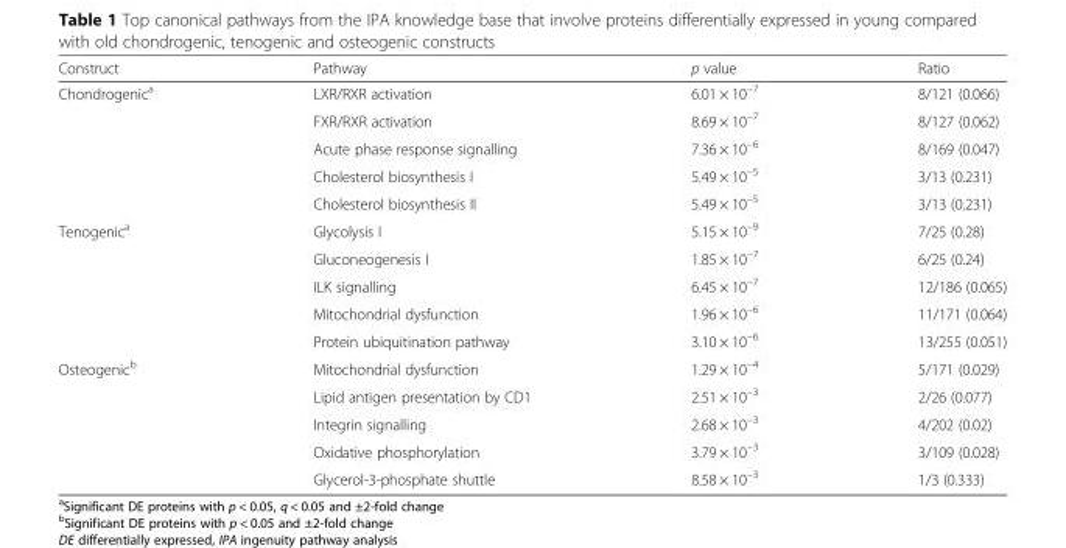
<table><thead><tr><td>Construct</td><td>Pathway</td><td>p value</td><td>Ratio</td></tr></thead><tbody><tr><td rowspan="5">Chondrogenic<sup>a</sup></td><td>LXR/RXR activation</td><td>6.01 × 10<sup>–7</sup></td><td>8/121 (0.066)</td></tr><tr><td>FXR/RXR activation</td><td>8.69 × 10<sup>–7</sup></td><td>8/127 (0.062)</td></tr><tr><td>Acute phase response signalling</td><td>7.36 × 10<sup>–6</sup></td><td>8/169 (0.047)</td></tr><tr><td>Cholesterol biosynthesis I</td><td>5.49 × 10<sup>–5</sup></td><td>3/13 (0.231)</td></tr><tr><td>Cholesterol biosynthesis II</td><td>5.49 × 10<sup>–5</sup></td><td>3/13 (0.231)</td></tr><tr><td rowspan="5">Tenogenic<sup>a</sup></td><td>Glycolysis I</td><td>5.15 × 10<sup>–9</sup></td><td>7/25 (0.28)</td></tr><tr><td>Gluconeogenesis I</td><td>1.85 × 10<sup>–7</sup></td><td>6/25 (0.24)</td></tr><tr><td>ILK signalling</td><td>6.45 × 10<sup>–7</sup></td><td>12/186 (0.065)</td></tr><tr><td>Mitochondrial dysfunction</td><td>1.96 × 10<sup>–6</sup></td><td>11/171 (0.064)</td></tr><tr><td>Protein ubiquitination pathway</td><td>3.10 × 10<sup>–6</sup></td><td>13/255 (0.051)</td></tr><tr><td rowspan="5">Osteogenic<sup>b</sup></td><td>Mitochondrial dysfunction</td><td>1.29 × 10<sup>–4</sup></td><td>5/171 (0.029)</td></tr><tr><td>Lipid antigen presentation by CD1</td><td>2.51 × 10<sup>–3</sup></td><td>2/26 (0.077)</td></tr><tr><td>Integrin signalling</td><td>2.68 × 10<sup>–3</sup></td><td>4/202 (0.02)</td></tr><tr><td>Oxidative phosphorylation</td><td>3.79 × 10<sup>–3</sup></td><td>3/109 (0.028)</td></tr><tr><td>Glycerol-3-phosphate shuttle</td><td>8.58 × 10<sup>–3</sup></td><td>1/3 (0.333)</td></tr></tbody></table>